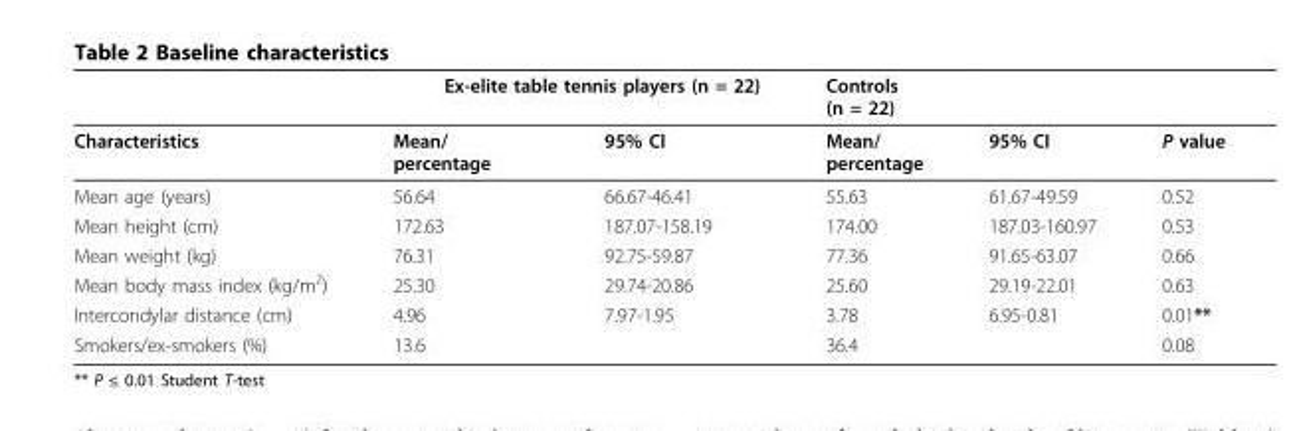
<table><thead><tr><td rowspan="2">Characteristics</td><td colspan="2">Ex-elite table tennis players (n = 22)</td><td colspan="2">Controls (n = 22)</td><td rowspan="2">P value</td></tr><tr><td>Mean/ percentage</td><td>95% CI</td><td>Mean/ percentage</td><td>95% CI</td></tr></thead><tbody><tr><td>Mean age (years)</td><td>56.64</td><td>66.67-46.41</td><td>55.63</td><td>61.67-49.59</td><td>0.52</td></tr><tr><td>Mean height (cm)</td><td>172.63</td><td>187.07-158.19</td><td>174.00</td><td>187.03-160.97</td><td>0.53</td></tr><tr><td>Mean weight (kg)</td><td>76.31</td><td>92.75-59.87</td><td>77.36</td><td>91.65-63.07</td><td>0.66</td></tr><tr><td>Mean body mass index (kg/m<sup>2</sup>)</td><td>25.30</td><td>29.74-20.86</td><td>25.60</td><td>29.19-22.01</td><td>0.63</td></tr><tr><td>Intercondylar distance (cm)</td><td>4.96</td><td>7.97-1.95</td><td>3.78</td><td>6.95-0.81</td><td>0.01**</td></tr><tr><td>Smokers/ex-smokers (%)</td><td>13.6</td><td></td><td>36.4</td><td></td><td>0.08</td></tr></tbody></table>